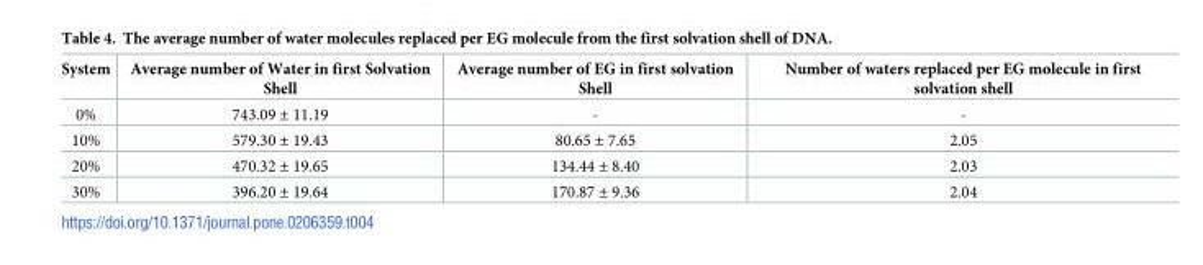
<table><thead><tr><td>System</td><td>Average number of Water in first Solvation Shell</td><td>Average number of EG in first solvation Shell</td><td>Number of waters replaced per EG molecule in first solvation shell</td></tr></thead><tbody><tr><td>0%</td><td>743.09 ± 11.19</td><td>-</td><td>-</td></tr><tr><td>10%</td><td>579.30 ± 19.43</td><td>80.65 ± 7.65</td><td>2.05</td></tr><tr><td>20%</td><td>470.32 ± 19.65</td><td>134.44 ± 8.40</td><td>2.03</td></tr><tr><td>30%</td><td>396.20 ± 19.64</td><td>170.87 ± 9.36</td><td>2.04</td></tr></tbody></table>